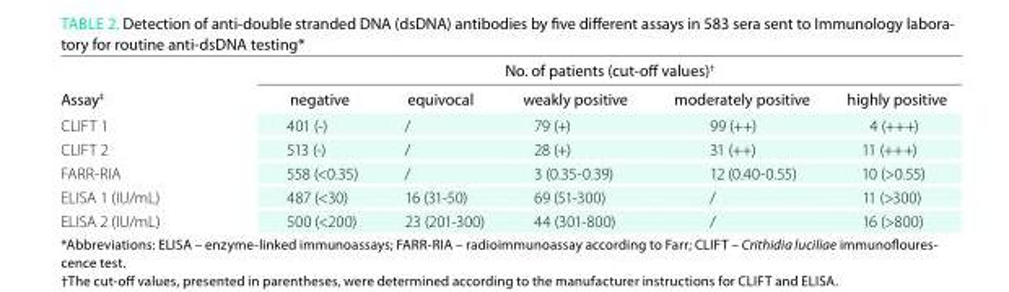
<table><thead><tr><td rowspan="2">Assay<sup>‡</sup></td><td colspan="5">no. of patients (cut-off values)<sup>†</sup></td></tr><tr><td>negative</td><td>equivocal</td><td>weakly positive</td><td>moderately positive</td><td>highly positive</td></tr></thead><tbody><tr><td>CLIFT 1</td><td>401 (-)</td><td>/</td><td>79 (+)</td><td>99 (++)</td><td>4 (+++)</td></tr><tr><td>CLIFT 2</td><td>513 (-)</td><td>/</td><td>28 (+)</td><td>31 (++)</td><td>11 (+++)</td></tr><tr><td>FARR-RIA</td><td>558 (&lt;0.35)</td><td>/</td><td>3 (0.35-0.39)</td><td>12 (0.40-0.55)</td><td>10 (&gt;0.55)</td></tr><tr><td>ELISA 1 (IU/mL)</td><td>487 (&lt;30)</td><td>16 (31-50)</td><td>69 (51-300)</td><td>/</td><td>11 (&gt;300)</td></tr><tr><td>ELISA 2 (IU/mL)</td><td>500 (&lt;200)</td><td>23 (201-300)</td><td>44 (301-800)</td><td>/</td><td>16 (&gt;800)</td></tr></tbody></table>